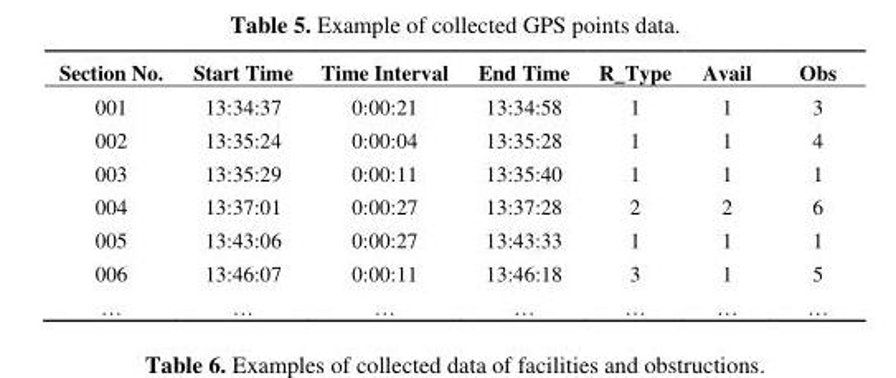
<table><thead><tr><td>Section No.</td><td>Start Time</td><td>Time Interval</td><td>End Time</td><td>R_Type</td><td>Avail</td><td>Obs</td></tr></thead><tbody><tr><td>001</td><td>13:34:37</td><td>0:00:21</td><td>13:34:58</td><td>1</td><td>1</td><td>3</td></tr><tr><td>002</td><td>13:35:24</td><td>0:00:04</td><td>13:35:28</td><td>1</td><td>1</td><td>4</td></tr><tr><td>003</td><td>13:35:29</td><td>0:00:11</td><td>13:35:40</td><td>1</td><td>1</td><td>1</td></tr><tr><td>004</td><td>13:37:01</td><td>0:00:27</td><td>13:37:28</td><td>2</td><td>2</td><td>6</td></tr><tr><td>005</td><td>13:43:06</td><td>0:00:27</td><td>13:43:33</td><td>1</td><td>1</td><td>1</td></tr><tr><td>006</td><td>13:46:07</td><td>0:00:11</td><td>13:46:18</td><td>3</td><td>1</td><td>5</td></tr><tr><td>…</td><td>…</td><td>…</td><td>…</td><td>…</td><td>…</td><td>…</td></tr></tbody></table>